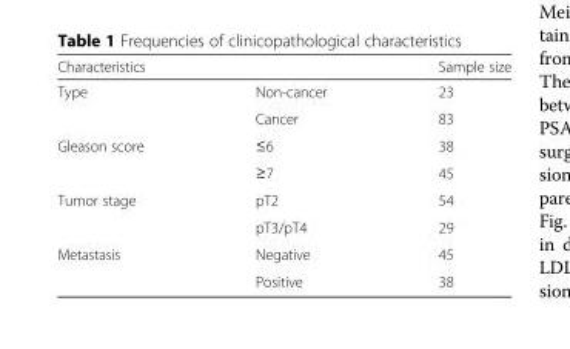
<table><thead><tr><td colspan="2">Characteristics</td><td rowspan="2">Sample size 23</td></tr><tr><td>Type</td><td>Non-cancer</td></tr></thead><tbody><tr><td></td><td>Cancer</td><td>83</td></tr><tr><td rowspan="2">Gleason score</td><td>≤6</td><td>38</td></tr><tr><td>≥7</td><td>45</td></tr><tr><td rowspan="2">Tumor stage</td><td>pT2</td><td>54</td></tr><tr><td>pT3/pT4</td><td>29</td></tr><tr><td rowspan="2">Metastasis</td><td>Negative</td><td>45</td></tr><tr><td>Positive</td><td>38</td></tr></tbody></table>